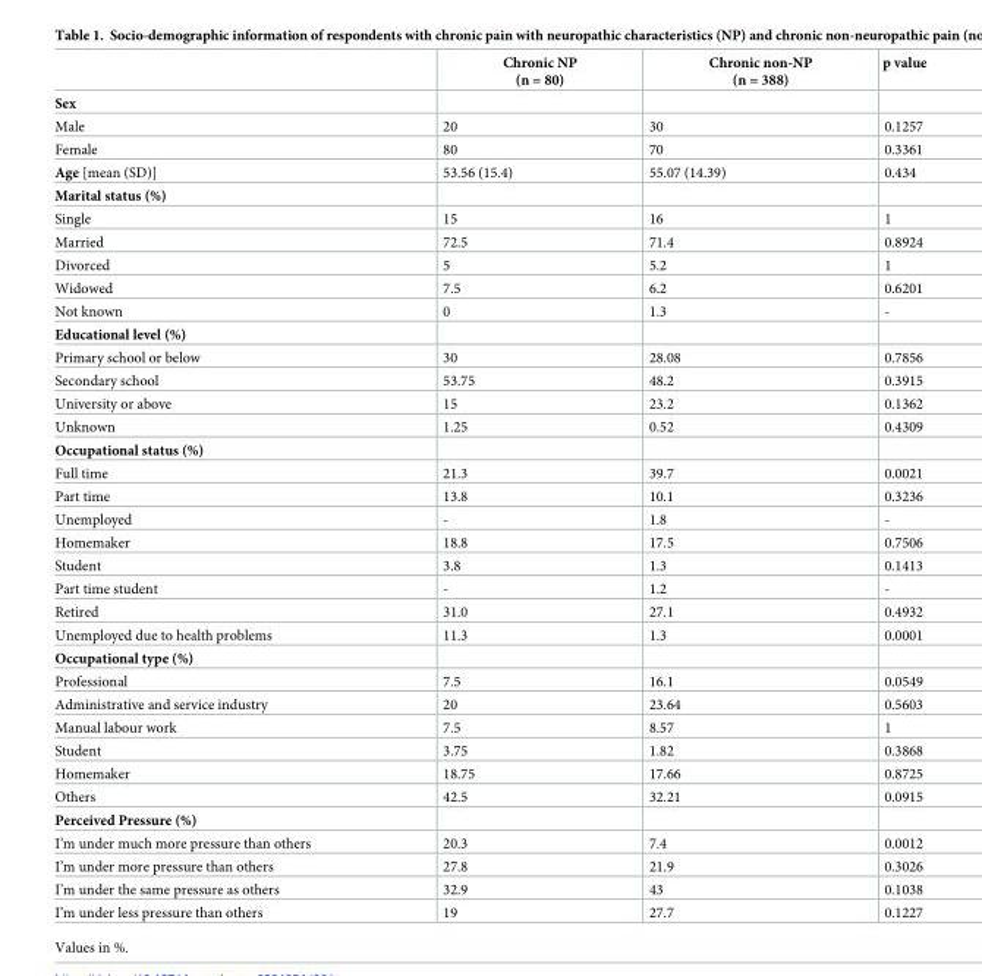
<table><thead><tr><td></td><td>Chronic NP (n = 80)</td><td>Chronic non-NP (n = 388)</td><td>p value</td></tr></thead><tbody><tr><td colspan="4">Sex</td></tr><tr><td>Male</td><td>20</td><td>30</td><td>0.1257</td></tr><tr><td>Female</td><td>80</td><td>70</td><td>0.3361</td></tr><tr><td>Age [mean (SD)]</td><td>53.56 (15.4)</td><td>55.07 (14.39)</td><td>0.434</td></tr><tr><td colspan="4">Marital status (%)</td></tr><tr><td>Single</td><td>15</td><td>16</td><td>1</td></tr><tr><td>Married</td><td>72.5</td><td>71.4</td><td>0.8924</td></tr><tr><td>Divorced</td><td>5</td><td>5.2</td><td>1</td></tr><tr><td>Widowed</td><td>7.5</td><td>6.2</td><td>0.6201</td></tr><tr><td>Not known</td><td>0</td><td>1.3</td><td>-</td></tr><tr><td colspan="4">Educational level (%)</td></tr><tr><td>Primary school or below</td><td>30</td><td>28.08</td><td>0.7856</td></tr><tr><td>Secondary school</td><td>53.75</td><td>48.2</td><td>0.3915</td></tr><tr><td>University or above</td><td>15</td><td>23.2</td><td>0.1362</td></tr><tr><td>Unknown</td><td>1.25</td><td>0.52</td><td>0.4309</td></tr><tr><td colspan="4">Occupational status (%)</td></tr><tr><td>Full time</td><td>21.3</td><td>39.7</td><td>0.0021</td></tr><tr><td>Part time</td><td>13.8</td><td>10.1</td><td>0.3236</td></tr><tr><td>Unemployed</td><td>-</td><td>1.8</td><td>-</td></tr><tr><td>Homemaker</td><td>18.8</td><td>17.5</td><td>0.7506</td></tr><tr><td>Student</td><td>3.8</td><td>1.3</td><td>0.1413</td></tr><tr><td>Part time student</td><td>-</td><td>1.2</td><td>-</td></tr><tr><td>Retired</td><td>31.0</td><td>27.1</td><td>0.4932</td></tr><tr><td>Unemployed due to health problems</td><td>11.3</td><td>1.3</td><td>0.0001</td></tr><tr><td colspan="4">Occupational type (%)</td></tr><tr><td>Professional</td><td>7.5</td><td>16.1</td><td>0.0549</td></tr><tr><td>Administrative and service industry</td><td>20</td><td>23.64</td><td>0.5603</td></tr><tr><td>Manual labour work</td><td>7.5</td><td>8.57</td><td>1</td></tr><tr><td>Student</td><td>3.75</td><td>1.82</td><td>0.3868</td></tr><tr><td>Homemaker</td><td>18.75</td><td>17.66</td><td>0.8725</td></tr><tr><td>Others</td><td>42.5</td><td>32.21</td><td>0.0915</td></tr><tr><td colspan="4">Perceived Pressure (%)</td></tr><tr><td>I’m under much more pressure than others</td><td>20.3</td><td>7.4</td><td>0.0012</td></tr><tr><td>I’m under more pressure than others</td><td>27.8</td><td>21.9</td><td>0.3026</td></tr><tr><td>I’m under the same pressure as others</td><td>32.9</td><td>43</td><td>0.1038</td></tr><tr><td>I’m under less pressure than others</td><td>19</td><td>27.7</td><td>0.1227</td></tr></tbody></table>